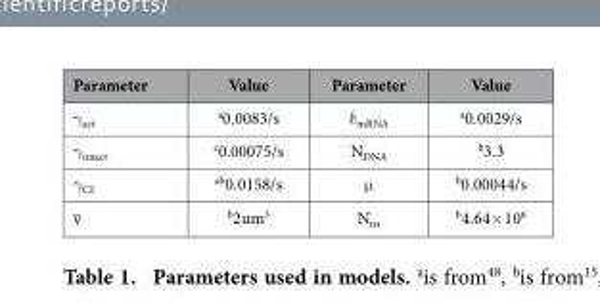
<table><thead><tr><td>Parameter</td><td>Value</td><td>Parameter</td><td>Value</td></tr></thead><tbody><tr><td>γ <sub>act</sub></td><td><sup>a</sup>0.0083/s</td><td>δ <sub>mRNA</sub></td><td><sup>a</sup>0.0029/s</td></tr><tr><td>γ <sub>unact</sub></td><td><sup>c</sup>0.00075/s</td><td>N<sub>DNA</sub></td><td><sup>b</sup>3.3</td></tr><tr><td rowspan="2">γ CI v</td><td><sup>ab</sup>0.0158/s</td><td>μ</td><td><sup>b</sup>0.00044/s</td></tr><tr><td><sup>b</sup>2um<sup>3</sup></td><td>N<sub>ns</sub></td><td><sup>b</sup>4.64× 10<sup>6</sup></td></tr></tbody></table>